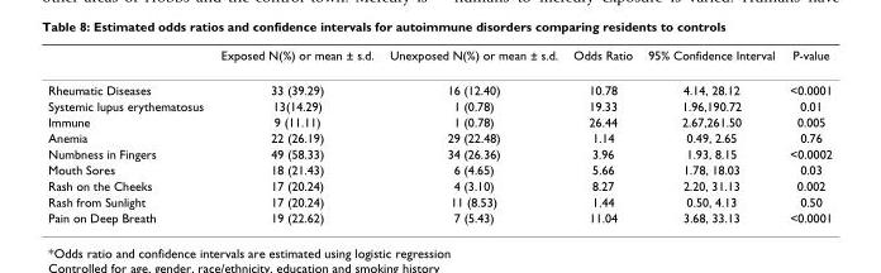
<table><thead><tr><td></td><td>Exposed N(%) or mean ± s.d.</td><td>Unexposed N(%) or mean ± s.d.</td><td>Odds Ratio</td><td>95% Confidence Interval</td><td>P-value</td></tr></thead><tbody><tr><td>Rheumatic Diseases</td><td>33 (39.29)</td><td>16 (12.40)</td><td>10.78</td><td>4.14, 28.12</td><td>&lt;0.0001</td></tr><tr><td>Systemic lupus erythematosus</td><td>13(14.29)</td><td>1 (0.78)</td><td>19.33</td><td>1.96,190.72</td><td>0.01</td></tr><tr><td>Immune</td><td>9 (11.11)</td><td>1 (0.78)</td><td>26.44</td><td>2.67,261.50</td><td>0.005</td></tr><tr><td>Anemia</td><td>22 (26.19)</td><td>29 (22.48)</td><td>1.14</td><td>0.49, 2.65</td><td>0.76</td></tr><tr><td>Numbness in Fingers</td><td>49 (58.33)</td><td>34 (26.36)</td><td>3.96</td><td>1.93, 8.15</td><td>&lt;0.0002</td></tr><tr><td>Mouth Sores</td><td>18 (21.43)</td><td>6 (4.65)</td><td>5.66</td><td>1.78, 18.03</td><td>0.03</td></tr><tr><td>Rash on the Cheeks</td><td>17 (20.24)</td><td>4 (3.10)</td><td>8.27</td><td>2.20, 31.13</td><td>0.002</td></tr><tr><td>Rash from Sunlight</td><td>17 (20.24)</td><td>11 (8.53)</td><td>1.44</td><td>0.50, 4.13</td><td>0.50</td></tr><tr><td>Pain on Deep Breath</td><td>19 (22.62)</td><td>7 (5.43)</td><td>11.04</td><td>3.68, 33.13</td><td>&lt;0.0001</td></tr></tbody></table>